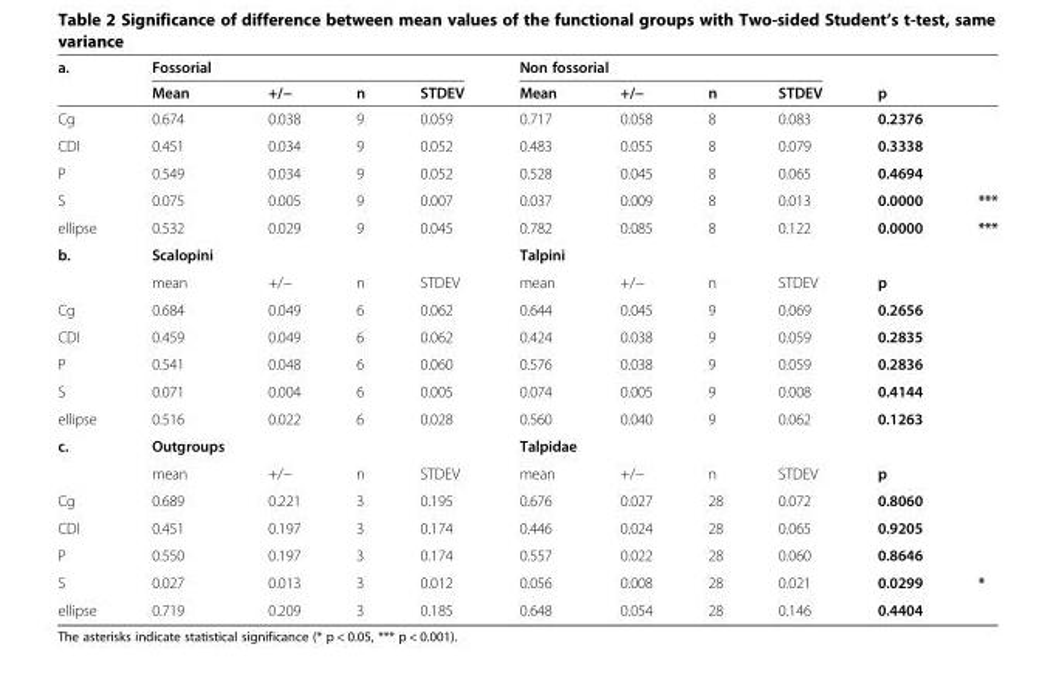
<table><thead><tr><td rowspan="2">a.</td><td colspan="4">Fossorial</td><td colspan="4">Non fossorial</td><td rowspan="2">p</td><td rowspan="2"></td></tr><tr><td>Mean</td><td>+/−</td><td>n</td><td>STDEV</td><td>Mean</td><td>+/−</td><td>n</td><td>STDEV</td></tr></thead><tbody><tr><td>Cg</td><td>0.674</td><td>0.038</td><td>9</td><td>0.059</td><td>0.717</td><td>0.058</td><td>8</td><td>0.083</td><td>0.2376</td><td></td></tr><tr><td>CDI</td><td>0.451</td><td>0.034</td><td>9</td><td>0.052</td><td>0.483</td><td>0.055</td><td>8</td><td>0.079</td><td>0.3338</td><td></td></tr><tr><td>P</td><td>0.549</td><td>0.034</td><td>9</td><td>0.052</td><td>0.528</td><td>0.045</td><td>8</td><td>0.065</td><td>0.4694</td><td></td></tr><tr><td>S</td><td>0.075</td><td>0.005</td><td>9</td><td>0.007</td><td>0.037</td><td>0.009</td><td>8</td><td>0.013</td><td>0.0000</td><td>***</td></tr><tr><td>ellipse</td><td>0.532</td><td>0.029</td><td>9</td><td>0.045</td><td>0.782</td><td>0.085</td><td>8</td><td>0.122</td><td>0.0000</td><td>***</td></tr><tr><td rowspan="2">b.</td><td>Scalopini</td><td></td><td></td><td></td><td>Talpini</td><td></td><td></td><td></td><td></td><td></td></tr><tr><td>mean</td><td>+/−</td><td>n</td><td>STDEV</td><td>mean</td><td>+/−</td><td>n</td><td>STDEV</td><td>p</td><td></td></tr><tr><td>Cg</td><td>0.684</td><td>0.049</td><td>6</td><td>0.062</td><td>0.644</td><td>0.045</td><td>9</td><td>0.069</td><td>0.2656</td><td></td></tr><tr><td>CDI</td><td>0.459</td><td>0.049</td><td>6</td><td>0.062</td><td>0.424</td><td>0.038</td><td>9</td><td>0.059</td><td>0.2835</td><td></td></tr><tr><td>P</td><td>0.541</td><td>0.048</td><td>6</td><td>0.060</td><td>0.576</td><td>0.038</td><td>9</td><td>0.059</td><td>0.2836</td><td></td></tr><tr><td>S</td><td>0.071</td><td>0.004</td><td>6</td><td>0.005</td><td>0.074</td><td>0.005</td><td>9</td><td>0.008</td><td>0.4144</td><td></td></tr><tr><td>ellipse</td><td>0.516</td><td>0.022</td><td>6</td><td>0.028</td><td>0.560</td><td>0.040</td><td>9</td><td>0.062</td><td>0.1263</td><td></td></tr><tr><td rowspan="2">c.</td><td>Outgroups</td><td></td><td></td><td></td><td>Talpidae</td><td></td><td></td><td></td><td></td><td></td></tr><tr><td>mean</td><td>+/−</td><td>n</td><td>STDEV</td><td>mean</td><td>+/−</td><td>n</td><td>STDEV</td><td>p</td><td></td></tr><tr><td>Cg</td><td>0.689</td><td>0.221</td><td>3</td><td>0.195</td><td>0.676</td><td>0.027</td><td>28</td><td>0.072</td><td>0.8060</td><td></td></tr><tr><td>CDI</td><td>0.451</td><td>0.197</td><td>3</td><td>0.174</td><td>0.446</td><td>0.024</td><td>28</td><td>0.065</td><td>0.9205</td><td></td></tr><tr><td>P</td><td>0.550</td><td>0.197</td><td>3</td><td>0.174</td><td>0.557</td><td>0.022</td><td>28</td><td>0.060</td><td>0.8646</td><td></td></tr><tr><td>S</td><td>0.027</td><td>0.013</td><td>3</td><td>0.012</td><td>0.056</td><td>0.008</td><td>28</td><td>0.021</td><td>0.0299</td><td>*</td></tr><tr><td>ellipse</td><td>0.719</td><td>0.209</td><td>3</td><td>0.185</td><td>0.648</td><td>0.054</td><td>28</td><td>0.146</td><td>0.4404</td><td></td></tr></tbody></table>